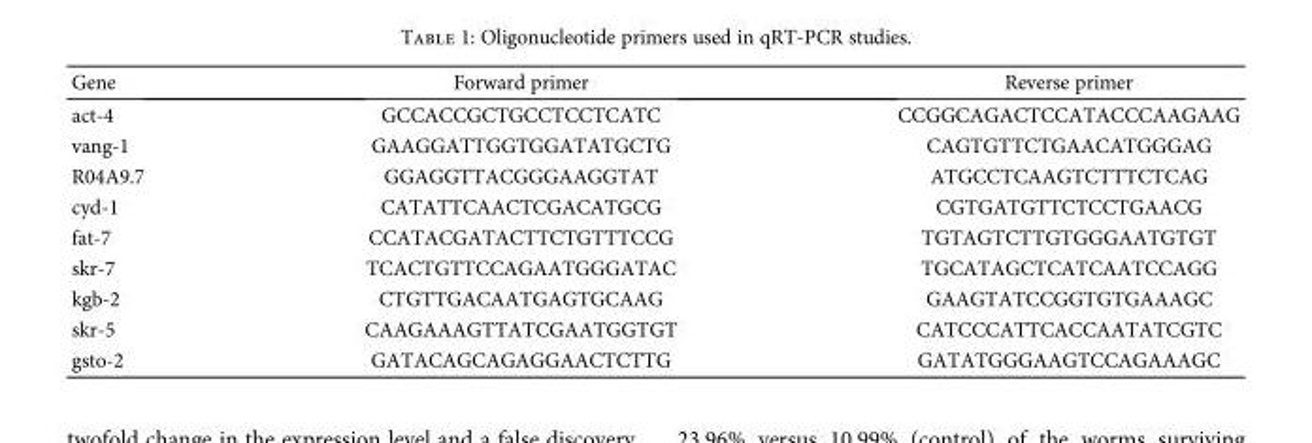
<table><thead><tr><td>Gene</td><td>Forward primer</td><td>Reverse primer</td></tr></thead><tbody><tr><td>act-4</td><td>GCCACCGCTGCCTCCTCATC</td><td>CCGGCAGACTCCATACCCAAGAAG</td></tr><tr><td>vang-1</td><td>GAAGGATTGGTGGATATGCTG</td><td>CAGTGTTCTGAACATGGGAG</td></tr><tr><td>R04A9.7</td><td>GGAGGTTACGGGAAGGTAT</td><td>ATGCCTCAAGTCTTTCTCAG</td></tr><tr><td>cyd-1</td><td>CATATTCAACTCGACATGCG</td><td>CGTGATGTTCTCCTGAACG</td></tr><tr><td>fat-7</td><td>CCATACGATACTTCTGTTTCCG</td><td>TGTAGTCTTGTGGGAATGTGT</td></tr><tr><td>skr-7</td><td>TCACTGTTCCAGAATGGGATAC</td><td>TGCATAGCTCATCAATCCAGG</td></tr><tr><td>kgb-2</td><td>CTGTTGACAATGAGTGCAAG</td><td>GAAGTATCCGGTGTGAAAGC</td></tr><tr><td>skr-5</td><td>CAAGAAAGTTATCGAATGGTGT</td><td>CATCCCATTCACCAATATCGTC</td></tr><tr><td>gsto-2</td><td>GATACAGCAGAGGAACTCTTG</td><td>GATATGGGAAGTCCAGAAAGC</td></tr></tbody></table>